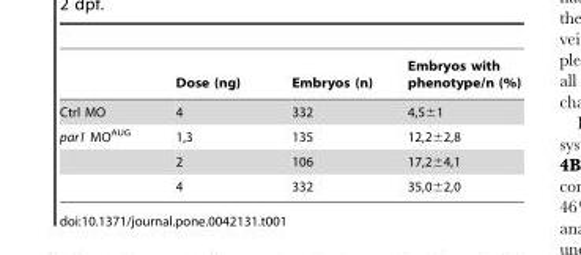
<table><thead><tr><td></td><td>Dose (ng)</td><td>Embryos (n)</td><td>Embryos with phenotype/n (%)</td></tr></thead><tbody><tr><td>Ctrl MO</td><td>4</td><td>332</td><td>4,5±1</td></tr><tr><td rowspan="3">par1 MO<sup>AUG</sup></td><td>1,3</td><td>135</td><td>12,2±2,8</td></tr><tr><td>2</td><td>106</td><td>17,2±4,1</td></tr><tr><td>4</td><td>332</td><td>35,0±2,0</td></tr></tbody></table>